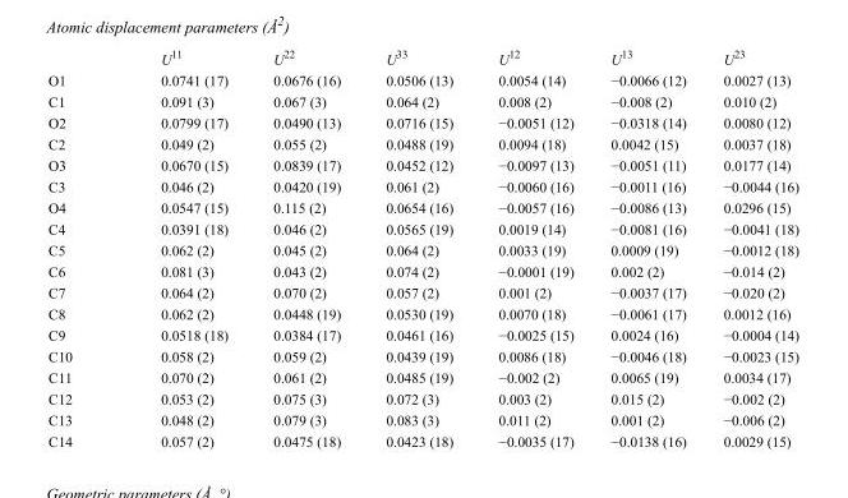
<table><thead><tr><td></td><td>U<sup>11</sup></td><td>U<sup>22</sup></td><td>U<sup>33</sup></td><td>U<sup>12</sup></td><td>U<sup>13</sup></td><td>U<sup>23</sup></td></tr></thead><tbody><tr><td>O1</td><td>0.0741 (17)</td><td>0.0676 (16)</td><td>0.0506 (13)</td><td>0.0054 (14)</td><td>−0.0066 (12)</td><td>0.0027 (13)</td></tr><tr><td>C1</td><td>0.091 (3)</td><td>0.067 (3)</td><td>0.064 (2)</td><td>0.008 (2)</td><td>−0.008 (2)</td><td>0.010 (2)</td></tr><tr><td>O2</td><td>0.0799 (17)</td><td>0.0490 (13)</td><td>0.0716 (15)</td><td>−0.0051 (12)</td><td>−0.0318 (14)</td><td>0.0080 (12)</td></tr><tr><td>C2</td><td>0.049 (2)</td><td>0.055 (2)</td><td>0.0488 (19)</td><td>0.0094 (18)</td><td>0.0042 (15)</td><td>0.0037 (18)</td></tr><tr><td>O3</td><td>0.0670 (15)</td><td>0.0839 (17)</td><td>0.0452 (12)</td><td>−0.0097 (13)</td><td>−0.0051 (11)</td><td>0.0177 (14)</td></tr><tr><td>C3</td><td>0.046 (2)</td><td>0.0420 (19)</td><td>0.061 (2)</td><td>−0.0060 (16)</td><td>−0.0011 (16)</td><td>−0.0044 (16)</td></tr><tr><td>O4</td><td>0.0547 (15)</td><td>0.115 (2)</td><td>0.0654 (16)</td><td>−0.0057 (16)</td><td>−0.0086 (13)</td><td>0.0296 (15)</td></tr><tr><td>C4</td><td>0.0391 (18)</td><td>0.046 (2)</td><td>0.0565 (19)</td><td>0.0019 (14)</td><td>−0.0081 (16)</td><td>−0.0041 (18)</td></tr><tr><td>C5</td><td>0.062 (2)</td><td>0.045 (2)</td><td>0.064 (2)</td><td>0.0033 (19)</td><td>0.0009 (19)</td><td>−0.0012 (18)</td></tr><tr><td>C6</td><td>0.081 (3)</td><td>0.043 (2)</td><td>0.074 (2)</td><td>−0.0001 (19)</td><td>0.002 (2)</td><td>−0.014 (2)</td></tr><tr><td>C7</td><td>0.064 (2)</td><td>0.070 (2)</td><td>0.057 (2)</td><td>0.001 (2)</td><td>−0.0037 (17)</td><td>−0.020 (2)</td></tr><tr><td>C8</td><td>0.062 (2)</td><td>0.0448 (19)</td><td>0.0530 (19)</td><td>0.0070 (18)</td><td>−0.0061 (17)</td><td>0.0012 (16)</td></tr><tr><td>C9</td><td>0.0518 (18)</td><td>0.0384 (17)</td><td>0.0461 (16)</td><td>−0.0025 (15)</td><td>0.0024 (16)</td><td>−0.0004 (14)</td></tr><tr><td>C10</td><td>0.058 (2)</td><td>0.059 (2)</td><td>0.0439 (19)</td><td>0.0086 (18)</td><td>−0.0046 (18)</td><td>−0.0023 (15)</td></tr><tr><td>C11</td><td>0.070 (2)</td><td>0.061 (2)</td><td>0.0485 (19)</td><td>−0.002 (2)</td><td>0.0065 (19)</td><td>0.0034 (17)</td></tr><tr><td>C12</td><td>0.053 (2)</td><td>0.075 (3)</td><td>0.072 (3)</td><td>0.003 (2)</td><td>0.015 (2)</td><td>−0.002 (2)</td></tr><tr><td>C13</td><td>0.048 (2)</td><td>0.079 (3)</td><td>0.083 (3)</td><td>0.011 (2)</td><td>0.001 (2)</td><td>−0.006 (2)</td></tr><tr><td>C14</td><td>0.057 (2)</td><td>0.0475 (18)</td><td>0.0423 (18)</td><td>−0.0035 (17)</td><td>−0.0138 (16)</td><td>0.0029 (15)</td></tr></tbody></table>